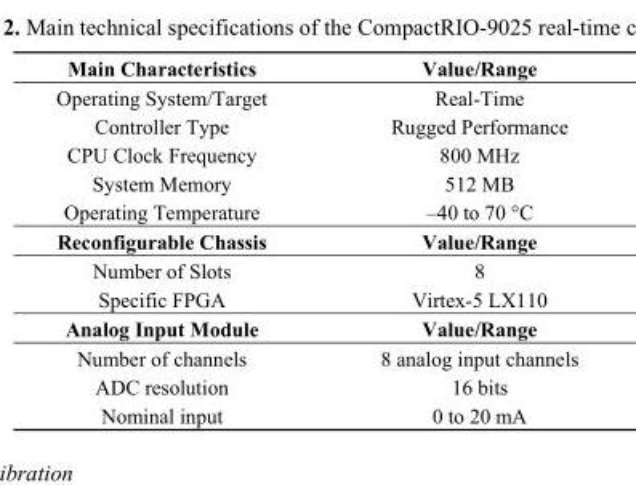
<table><thead><tr><td>Main Characteristics</td><td>Value/Range</td></tr></thead><tbody><tr><td>Operating System/Target</td><td>Real-Time</td></tr><tr><td>Controller Type</td><td>Rugged Performance</td></tr><tr><td>CPU Clock Frequency</td><td>800 MHz</td></tr><tr><td>System Memory</td><td>512 MB</td></tr><tr><td>Operating Temperature</td><td>–40 to 70 °C</td></tr><tr><td>Reconfigurable Chassis</td><td>Value/Range</td></tr><tr><td>Number of Slots</td><td>8</td></tr><tr><td>Specific FPGA</td><td>Virtex-5 LX110</td></tr><tr><td>Analog Input Module</td><td>Value/Range</td></tr><tr><td>Number of channels</td><td>8 analog input channels</td></tr><tr><td>ADC resolution</td><td>16 bits</td></tr><tr><td>Nominal input</td><td>0 to 20 mA</td></tr></tbody></table>